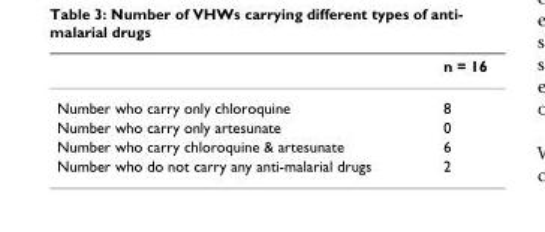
<table><thead><tr><td></td><td>n = 16</td></tr></thead><tbody><tr><td>Number who carry only chloroquine</td><td>8</td></tr><tr><td>Number who carry only artesunate</td><td>0</td></tr><tr><td>Number who carry chloroquine &amp; artesunate</td><td>6</td></tr><tr><td>Number who do not carry any anti-malarial drugs</td><td>2</td></tr></tbody></table>